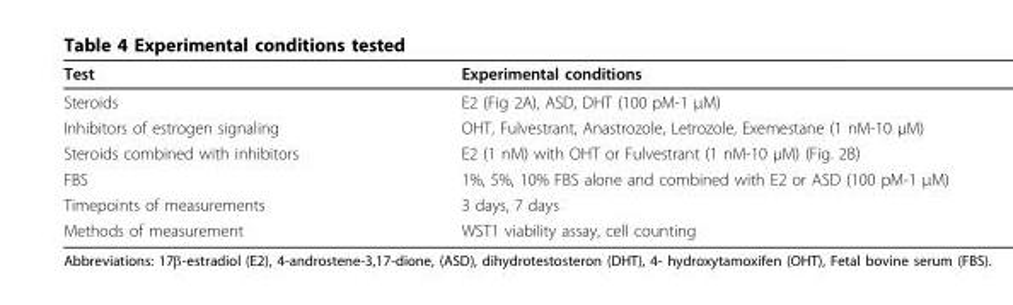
<table><thead><tr><td>Test</td><td>Experimental conditions</td></tr></thead><tbody><tr><td>Steroids</td><td>E2 (Fig 2A), ASD, DHT (100 pM-1 μM)</td></tr><tr><td>Inhibitors of estrogen signaling</td><td>OHT, Fulvestrant, Anastrozole, Letrozole, Exemestane (1 nM-10 μM)</td></tr><tr><td>Steroids combined with inhibitors</td><td>E2 (1 nM) with OHT or Fulvestrant (1 nM-10 μM) (Fig. 2B)</td></tr><tr><td>FBS</td><td>1%, 5%, 10% FBS alone and combined with E2 or ASD (100 pM-1 μM)</td></tr><tr><td>Timepoints of measurements</td><td>3 days, 7 days</td></tr><tr><td>Methods of measurement</td><td>WST1 viability assay, cell counting</td></tr></tbody></table>